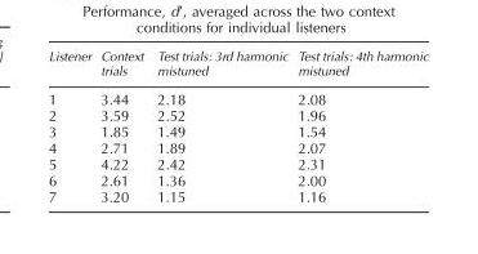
<table><thead><tr><td>Listener</td><td>Context trials</td><td>Test trials: 3rd harmonic mistuned</td><td>Test trials: 4th harmonic mistuned</td></tr></thead><tbody><tr><td>1</td><td>3.44</td><td>2.18</td><td>2.08</td></tr><tr><td>2</td><td>3.59</td><td>2.52</td><td>1.96</td></tr><tr><td>3</td><td>1.85</td><td>1.49</td><td>1.54</td></tr><tr><td>4</td><td>2.71</td><td>1.89</td><td>2.07</td></tr><tr><td>5</td><td>4.22</td><td>2.42</td><td>2.31</td></tr><tr><td>6</td><td>2.61</td><td>1.36</td><td>2.00</td></tr><tr><td>7</td><td>3.20</td><td>1.15</td><td>1.16</td></tr></tbody></table>